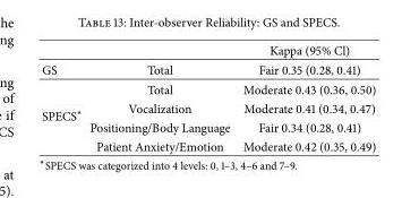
<table><thead><tr><td></td><td></td><td>Kappa (95% Cl)</td></tr></thead><tbody><tr><td>GS</td><td>Total</td><td>Fair 0.35 (0.28, 0.41)</td></tr><tr><td rowspan="4">SPECS∗</td><td>Total</td><td>Moderate 0.43 (0.36, 0.50)</td></tr><tr><td>Vocalization</td><td>Moderate 0.41 (0.34, 0.47)</td></tr><tr><td>Positioning/Body Language</td><td>Fair 0.34 (0.28, 0.41)</td></tr><tr><td>Patient Anxiety/Emotion</td><td>Moderate 0.42 (0.35, 0.49)</td></tr></tbody></table>